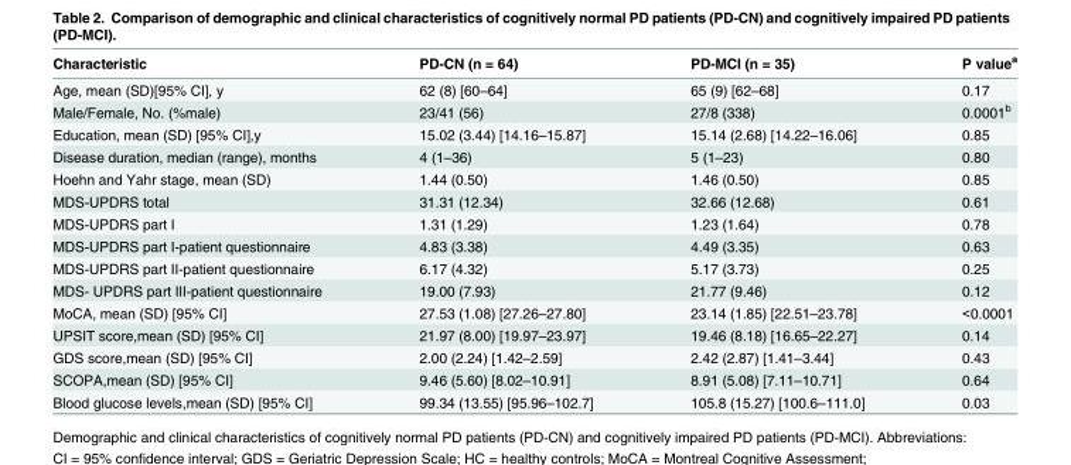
<table><thead><tr><td>Characteristic</td><td>PD-CN (n = 64)</td><td>PD-MCI (n = 35)</td><td>P value<sup>a</sup></td></tr></thead><tbody><tr><td>Age, mean (SD)[95% CI], y</td><td>62 (8) [60–64]</td><td>65 (9) [62–68]</td><td>0.17</td></tr><tr><td>Male/Female, No. (%male)</td><td>23/41 (56)</td><td>27/8 (338)</td><td>0.0001<sup>b</sup></td></tr><tr><td>Education, mean (SD) [95% CI],y</td><td>15.02 (3.44) [14.16–15.87]</td><td>15.14 (2.68) [14.22–16.06]</td><td>0.85</td></tr><tr><td>Disease duration, median (range), months</td><td>4 (1–36)</td><td>5 (1–23)</td><td>0.80</td></tr><tr><td>Hoehn and Yahr stage, mean (SD)</td><td>1.44 (0.50)</td><td>1.46 (0.50)</td><td>0.85</td></tr><tr><td>MDS-UPDRS total</td><td>31.31 (12.34)</td><td>32.66 (12.68)</td><td>0.61</td></tr><tr><td>MDS-UPDRS part I</td><td>1.31 (1.29)</td><td>1.23 (1.64)</td><td>0.78</td></tr><tr><td>MDS-UPDRS part I-patient questionnaire</td><td>4.83 (3.38)</td><td>4.49 (3.35)</td><td>0.63</td></tr><tr><td>MDS-UPDRS part II-patient questionnaire</td><td>6.17 (4.32)</td><td>5.17 (3.73)</td><td>0.25</td></tr><tr><td>MDS- UPDRS part III-patient questionnaire</td><td>19.00 (7.93)</td><td>21.77 (9.46)</td><td>0.12</td></tr><tr><td>MoCA, mean (SD) [95% CI]</td><td>27.53 (1.08) [27.26–27.80]</td><td>23.14 (1.85) [22.51–23.78]</td><td>&lt;0.0001</td></tr><tr><td>UPSIT score,mean (SD) [95% CI]</td><td>21.97 (8.00) [19.97–23.97]</td><td>19.46 (8.18) [16.65–22.27]</td><td>0.14</td></tr><tr><td>GDS score,mean (SD) [95% CI]</td><td>2.00 (2.24) [1.42–2.59]</td><td>2.42 (2.87) [1.41–3.44]</td><td>0.43</td></tr><tr><td>SCOPA,mean (SD) [95% CI]</td><td>9.46 (5.60) [8.02–10.91]</td><td>8.91 (5.08) [7.11–10.71]</td><td>0.64</td></tr><tr><td>Blood glucose levels,mean (SD) [95% CI]</td><td>99.34 (13.55) [95.96–102.7]</td><td>105.8 (15.27) [100.6–111.0]</td><td>0.03</td></tr></tbody></table>